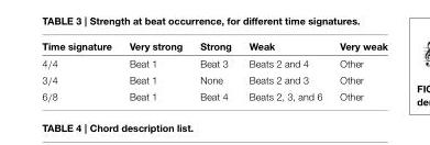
<table><thead><tr><td>Time signature</td><td>Very strong</td><td>Strong</td><td>Weak</td><td>Very weak</td></tr></thead><tbody><tr><td>4/4</td><td>Beat 1</td><td>Beat 3</td><td>Beats 2 and 4</td><td>Other</td></tr><tr><td>3/4</td><td>Beat 1</td><td>None</td><td>Beats 2 and 3</td><td>Other</td></tr><tr><td>6/8</td><td>Beat 1</td><td>Beat 4</td><td>Beats 2, 3, and 6</td><td>Other</td></tr></tbody></table>